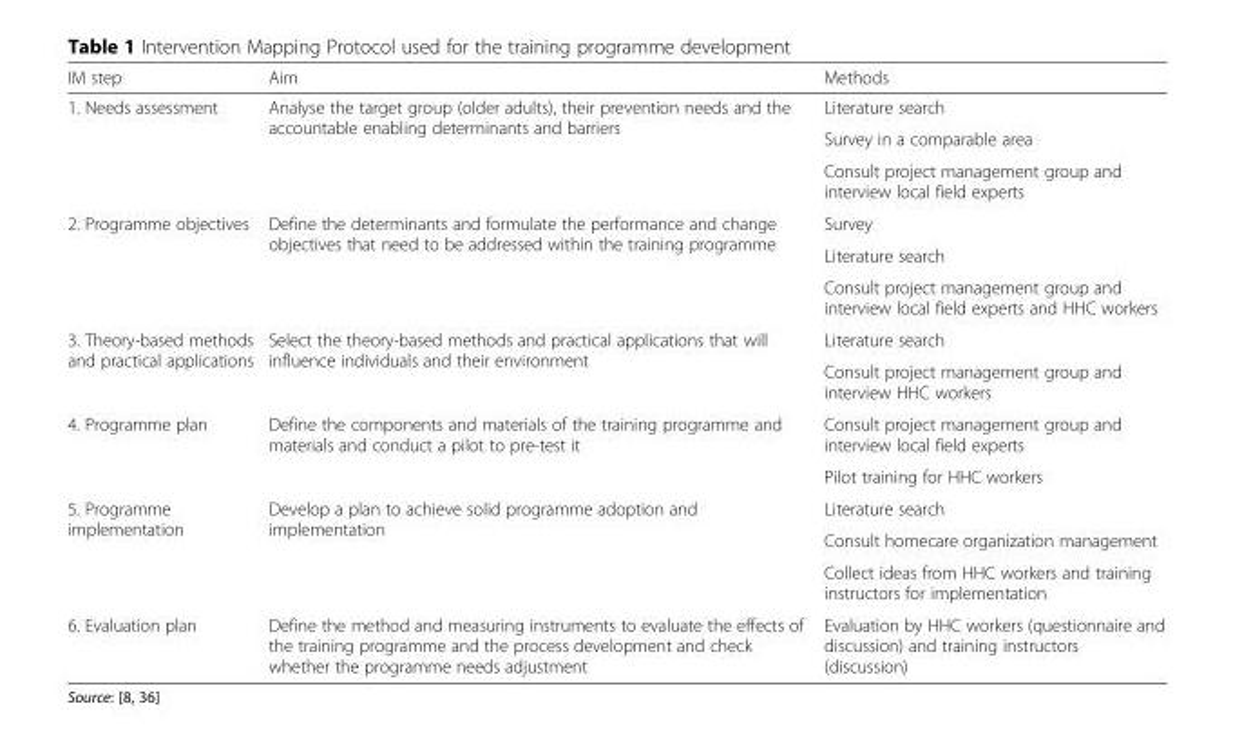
<table><thead><tr><td>IM step</td><td>Aim</td><td>Methods</td></tr></thead><tbody><tr><td rowspan="3">1. Needs assessment</td><td rowspan="3">Analyse the target group (older adults), their prevention needs and the accountable enabling determinants and barriers</td><td>Literature search</td></tr><tr><td>Survey in a comparable area</td></tr><tr><td>Consult project management group and interview local field experts</td></tr><tr><td rowspan="3">2. Programme objectives</td><td rowspan="3">Define the determinants and formulate the performance and change objectives that need to be addressed within the training programme</td><td>Survey</td></tr><tr><td>Literature search</td></tr><tr><td>Consult project management group and interview local field experts and HHC workers</td></tr><tr><td rowspan="2">3. Theory-based methods and practical applications</td><td rowspan="2">Select the theory-based methods and practical applications that will influence individuals and their environment</td><td>Literature search</td></tr><tr><td>Consult project management group and interview HHC workers</td></tr><tr><td rowspan="2">4. Programme plan</td><td rowspan="2">Define the components and materials of the training programme and materials and conduct a pilot to pre-test it</td><td>Consult project management group and interview local field experts</td></tr><tr><td>Pilot training for HHC workers</td></tr><tr><td rowspan="3">5. Programme implementation</td><td rowspan="3">Develop a plan to achieve solid programme adoption and implementation</td><td>Literature search</td></tr><tr><td>Consult homecare organization management</td></tr><tr><td>Collect ideas from HHC workers and training instructors for implementation</td></tr><tr><td>6. Evaluation plan</td><td>Define the method and measuring instruments to evaluate the effects of the training programme and the process development and check whether the programme needs adjustment</td><td>Evaluation by HHC workers (questionnaire and discussion) and training instructors (discussion)</td></tr></tbody></table>